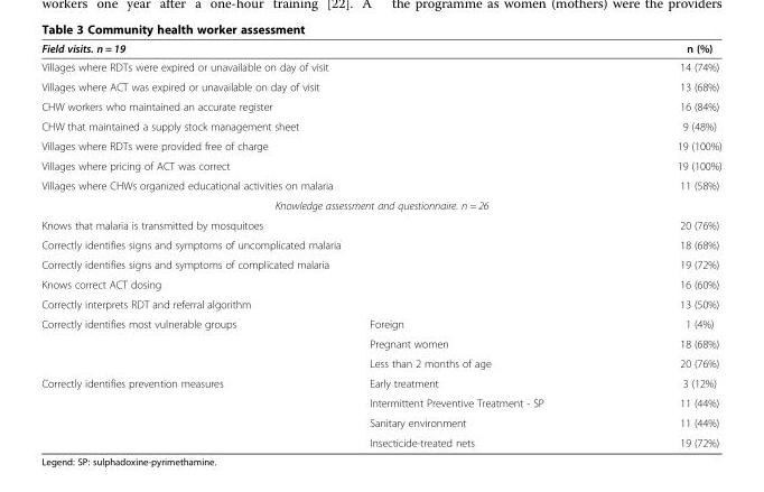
<table><thead><tr><td colspan="2">Field visits. n = 19</td><td rowspan="2">n (%) 14 (74%)</td></tr><tr><td>Villages where RDTs were expired or unavailable on day of visit</td><td></td></tr></thead><tbody><tr><td>Villages where ACT was expired or unavailable on day of visit</td><td></td><td>13 (68%)</td></tr><tr><td>CHW workers who maintained an accurate register</td><td></td><td>16 (84%)</td></tr><tr><td>CHW that maintained a supply stock management sheet</td><td></td><td>9 (48%)</td></tr><tr><td>Villages where RDTs were provided free of charge</td><td></td><td>19 (100%)</td></tr><tr><td>Villages where pricing of ACT was correct</td><td></td><td>19 (100%)</td></tr><tr><td>Villages where CHWs organized educational activities on malaria</td><td></td><td>11 (58%)</td></tr><tr><td colspan="3">Knowledge assessment and questionnaire. n = 26</td></tr><tr><td>Knows that malaria is transmitted by mosquitoes</td><td></td><td>20 (76%)</td></tr><tr><td>Correctly identifies signs and symptoms of uncomplicated malaria</td><td></td><td>18 (68%)</td></tr><tr><td>Correctly identifies signs and symptoms of complicated malaria</td><td></td><td>19 (72%)</td></tr><tr><td>Knows correct ACT dosing</td><td></td><td>16 (60%)</td></tr><tr><td>Correctly interprets RDT and referral algorithm</td><td></td><td>13 (50%)</td></tr><tr><td rowspan="3">Correctly identifies most vulnerable groups</td><td>Foreign</td><td>1 (4%)</td></tr><tr><td>Pregnant women</td><td>18 (68%)</td></tr><tr><td>Less than 2 months of age</td><td>20 (76%)</td></tr><tr><td rowspan="4">Correctly identifies prevention measures</td><td>Early treatment</td><td>3 (12%)</td></tr><tr><td>Intermittent Preventive Treatment - SP</td><td>11 (44%)</td></tr><tr><td>Sanitary environment</td><td>11 (44%)</td></tr><tr><td>Insecticide-treated nets</td><td>19 (72%)</td></tr></tbody></table>